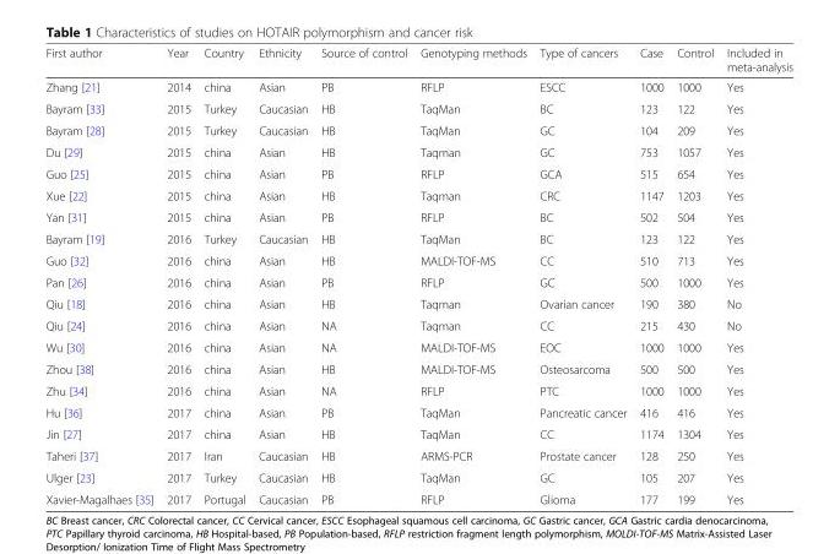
<table><thead><tr><td>First author</td><td>Year</td><td>Country</td><td>Ethnicity</td><td>Source of control</td><td>Genotyping methods</td><td>Type of cancers</td><td>Case</td><td>Control</td><td>Included in meta-analysis</td></tr></thead><tbody><tr><td>Zhang [21]</td><td>2014</td><td>china</td><td>Asian</td><td>PB</td><td>RFLP</td><td>ESCC</td><td>1000</td><td>1000</td><td>Yes</td></tr><tr><td>Bayram [33]</td><td>2015</td><td>Turkey</td><td>Caucasian</td><td>HB</td><td>TaqMan</td><td>BC</td><td>123</td><td>122</td><td>Yes</td></tr><tr><td>Bayram [28]</td><td>2015</td><td>Turkey</td><td>Caucasian</td><td>HB</td><td>TaqMan</td><td>GC</td><td>104</td><td>209</td><td>Yes</td></tr><tr><td>Du [29]</td><td>2015</td><td>china</td><td>Asian</td><td>HB</td><td>Taqman</td><td>GC</td><td>753</td><td>1057</td><td>Yes</td></tr><tr><td>Guo [25]</td><td>2015</td><td>china</td><td>Asian</td><td>PB</td><td>RFLP</td><td>GCA</td><td>515</td><td>654</td><td>Yes</td></tr><tr><td>Xue [22]</td><td>2015</td><td>china</td><td>Asian</td><td>HB</td><td>Taqman</td><td>CRC</td><td>1147</td><td>1203</td><td>Yes</td></tr><tr><td>Yan [31]</td><td>2015</td><td>china</td><td>Asian</td><td>PB</td><td>RFLP</td><td>BC</td><td>502</td><td>504</td><td>Yes</td></tr><tr><td>Bayram [19]</td><td>2016</td><td>Turkey</td><td>Caucasian</td><td>HB</td><td>TaqMan</td><td>BC</td><td>123</td><td>122</td><td>Yes</td></tr><tr><td>Guo [32]</td><td>2016</td><td>china</td><td>Asian</td><td>HB</td><td>MALDI-TOF-MS</td><td>CC</td><td>510</td><td>713</td><td>Yes</td></tr><tr><td>Pan [26]</td><td>2016</td><td>china</td><td>Asian</td><td>PB</td><td>RFLP</td><td>GC</td><td>500</td><td>1000</td><td>Yes</td></tr><tr><td>Qiu [18]</td><td>2016</td><td>china</td><td>Asian</td><td>HB</td><td>Taqman</td><td>Ovarian cancer</td><td>190</td><td>380</td><td>No</td></tr><tr><td>Qiu [24]</td><td>2016</td><td>china</td><td>Asian</td><td>NA</td><td>Taqman</td><td>CC</td><td>215</td><td>430</td><td>No</td></tr><tr><td>Wu [30]</td><td>2016</td><td>china</td><td>Asian</td><td>NA</td><td>MALDI-TOF-MS</td><td>EOC</td><td>1000</td><td>1000</td><td>Yes</td></tr><tr><td>Zhou [38]</td><td>2016</td><td>china</td><td>Asian</td><td>HB</td><td>MALDI-TOF-MS</td><td>Osteosarcoma</td><td>500</td><td>500</td><td>Yes</td></tr><tr><td>Zhu [34]</td><td>2016</td><td>china</td><td>Asian</td><td>NA</td><td>RFLP</td><td>PTC</td><td>1000</td><td>1000</td><td>Yes</td></tr><tr><td>Hu [36]</td><td>2017</td><td>china</td><td>Asian</td><td>PB</td><td>TaqMan</td><td>Pancreatic cancer</td><td>416</td><td>416</td><td>Yes</td></tr><tr><td>Jin [27]</td><td>2017</td><td>china</td><td>Asian</td><td>HB</td><td>TaqMan</td><td>CC</td><td>1174</td><td>1304</td><td>Yes</td></tr><tr><td>Taheri [37]</td><td>2017</td><td>Iran</td><td>Caucasian</td><td>HB</td><td>ARMS-PCR</td><td>Prostate cancer</td><td>128</td><td>250</td><td>Yes</td></tr><tr><td>Ulger [23]</td><td>2017</td><td>Turkey</td><td>Caucasian</td><td>HB</td><td>TaqMan</td><td>GC</td><td>105</td><td>207</td><td>Yes</td></tr><tr><td>Xavier‑Magalhaes [35]</td><td>2017</td><td>Portugal</td><td>Caucasian</td><td>PB</td><td>RFLP</td><td>Glioma</td><td>177</td><td>199</td><td>Yes</td></tr></tbody></table>